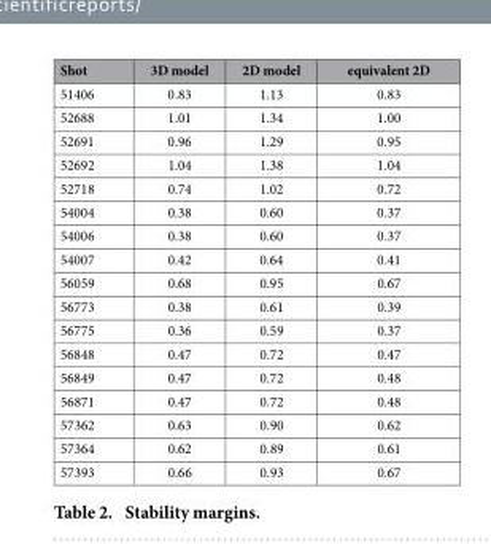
<table><thead><tr><td>Shot</td><td>3D model</td><td>2D model</td><td>equivalent 2D</td></tr></thead><tbody><tr><td>51406</td><td>0.83</td><td>1.13</td><td>0.83</td></tr><tr><td>52688</td><td>1.01</td><td>1.34</td><td>1.00</td></tr><tr><td>52691</td><td>0.96</td><td>1.29</td><td>0.95</td></tr><tr><td>52692</td><td>1.04</td><td>1.38</td><td>1.04</td></tr><tr><td>52718</td><td>0.74</td><td>1.02</td><td>0.72</td></tr><tr><td>54004</td><td>0.38</td><td>0.60</td><td>0.37</td></tr><tr><td>54006</td><td>0.38</td><td>0.60</td><td>0.37</td></tr><tr><td>54007</td><td>0.42</td><td>0.64</td><td>0.41</td></tr><tr><td>56059</td><td>0.68</td><td>0.95</td><td>0.67</td></tr><tr><td>56773</td><td>0.38</td><td>0.61</td><td>0.39</td></tr><tr><td>56775</td><td>0.36</td><td>0.59</td><td>0.37</td></tr><tr><td>56848</td><td>0.47</td><td>0.72</td><td>0.47</td></tr><tr><td>56849</td><td>0.47</td><td>0.72</td><td>0.48</td></tr><tr><td>56871</td><td>0.47</td><td>0.72</td><td>0.48</td></tr><tr><td>57362</td><td>0.63</td><td>0.90</td><td>0.62</td></tr><tr><td>57364</td><td>0.62</td><td>0.89</td><td>0.61</td></tr><tr><td>57393</td><td>0.66</td><td>0.93</td><td>0.67</td></tr></tbody></table>